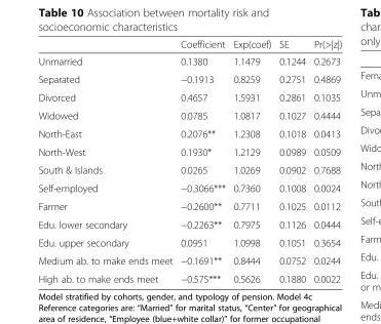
<table><thead><tr><td></td><td>Coefficient</td><td>Exp(coef)</td><td>SE</td><td>Pr(&gt;|z|)</td></tr></thead><tbody><tr><td>Unmarried</td><td>0.1380</td><td>1.1479</td><td>0.1244</td><td>0.2673</td></tr><tr><td>Separated</td><td>−0.1913</td><td>0.8259</td><td>0.2751</td><td>0.4869</td></tr><tr><td>Divorced</td><td>0.4657</td><td>1.5931</td><td>0.2861</td><td>0.1035</td></tr><tr><td>Widowed</td><td>0.0785</td><td>1.0817</td><td>0.1027</td><td>0.4444</td></tr><tr><td>North-East</td><td>0.2076**</td><td>1.2308</td><td>0.1018</td><td>0.0413</td></tr><tr><td>North-West</td><td>0.1930*</td><td>1.2129</td><td>0.0989</td><td>0.0509</td></tr><tr><td>South &amp; Islands</td><td>0.0265</td><td>1.0269</td><td>0.0902</td><td>0.7688</td></tr><tr><td>Self-employed</td><td>−0.3066***</td><td>0.7360</td><td>0.1008</td><td>0.0024</td></tr><tr><td>Farmer</td><td>−0.2600**</td><td>0.7711</td><td>0.1025</td><td>0.0112</td></tr><tr><td>Edu. lower secondary</td><td>−0.2263**</td><td>0.7975</td><td>0.1126</td><td>0.0444</td></tr><tr><td>Edu. upper secondary</td><td>0.0951</td><td>1.0998</td><td>0.1051</td><td>0.3654</td></tr><tr><td>Medium ab. to make ends meet</td><td>−0.1691**</td><td>0.8444</td><td>0.0752</td><td>0.0244</td></tr><tr><td>High ab. to make ends meet</td><td>−0.575***</td><td>0.5626</td><td>0.1880</td><td>0.0022</td></tr></tbody></table>